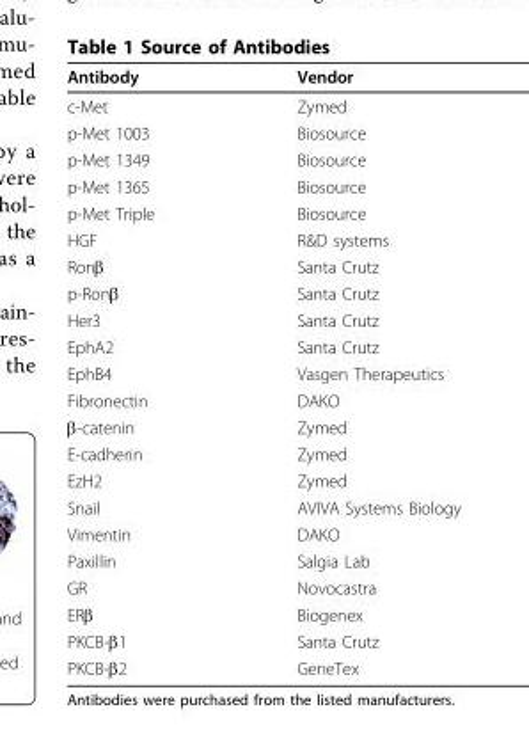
<table><thead><tr><td>Antibody</td><td>Vendor</td></tr></thead><tbody><tr><td>c-Met</td><td>Zymed</td></tr><tr><td>p-Met 1003</td><td>Biosource</td></tr><tr><td>p-Met 1349</td><td>Biosource</td></tr><tr><td>p-Met 1365</td><td>Biosource</td></tr><tr><td>p-Met Triple</td><td>Biosource</td></tr><tr><td>HGF</td><td>R&amp;D systems</td></tr><tr><td>Ronβ</td><td>Santa Crutz</td></tr><tr><td>p-Ronβ</td><td>Santa Crutz</td></tr><tr><td>Her3</td><td>Santa Crutz</td></tr><tr><td>EphA2</td><td>Santa Crutz</td></tr><tr><td>EphB4</td><td>Vasgen Therapeutics</td></tr><tr><td>Fibronectin</td><td>DAKO</td></tr><tr><td>β-catenin</td><td>Zymed</td></tr><tr><td>E-cadherin</td><td>Zymed</td></tr><tr><td>EzH2</td><td>Zymed</td></tr><tr><td>Snail</td><td>AVIVA Systems Biology</td></tr><tr><td>Vimentin</td><td>DAKO</td></tr><tr><td>Paxillin</td><td>Salgia Lab</td></tr><tr><td>GR</td><td>Novocastra</td></tr><tr><td>ERβ</td><td>Biogenex</td></tr><tr><td>PKCB-β1</td><td>Santa Crutz</td></tr><tr><td>PKCB-β2</td><td>GeneTex</td></tr></tbody></table>